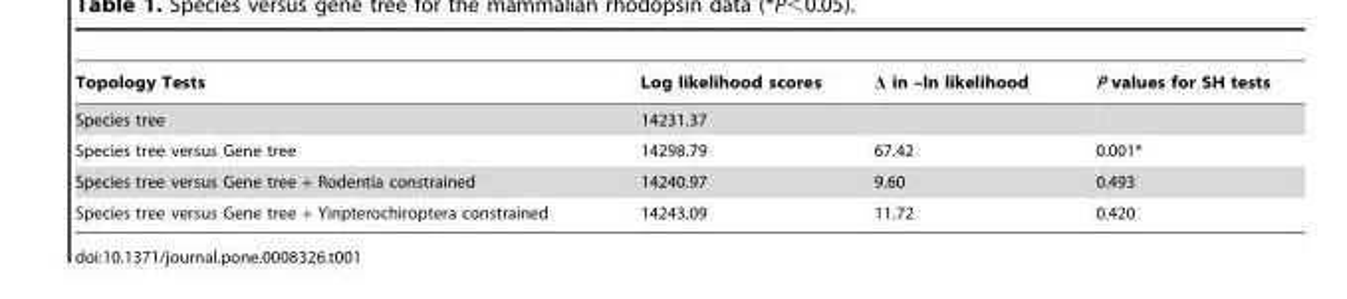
<table><thead><tr><td>Topology Tests</td><td>Log likelihood scores</td><td>Δ in –ln likelihood</td><td>P values for SH tests</td></tr></thead><tbody><tr><td>Species tree</td><td>14231.37</td><td></td><td></td></tr><tr><td>Species tree versus Gene tree</td><td>14298.79</td><td>67.42</td><td>0.001*</td></tr><tr><td>Species tree versus Gene tree + Rodentia constrained</td><td>14240.97</td><td>9.60</td><td>0.493</td></tr><tr><td>Species tree versus Gene tree + Yinpterochiroptera constrained</td><td>14243.09</td><td>11.72</td><td>0.420</td></tr></tbody></table>